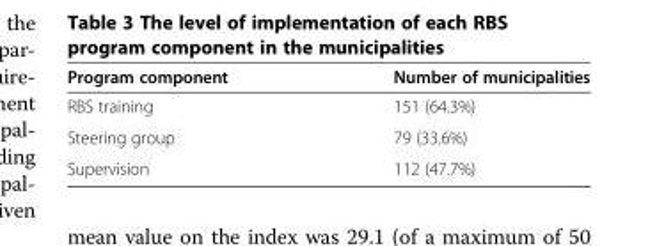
<table><thead><tr><td>Program component</td><td>Number of municipalities</td></tr></thead><tbody><tr><td>RBS training</td><td>151 (64.3%)</td></tr><tr><td>Steering group</td><td>79 (33.6%)</td></tr><tr><td>Supervision</td><td>112 (47.7%)</td></tr></tbody></table>